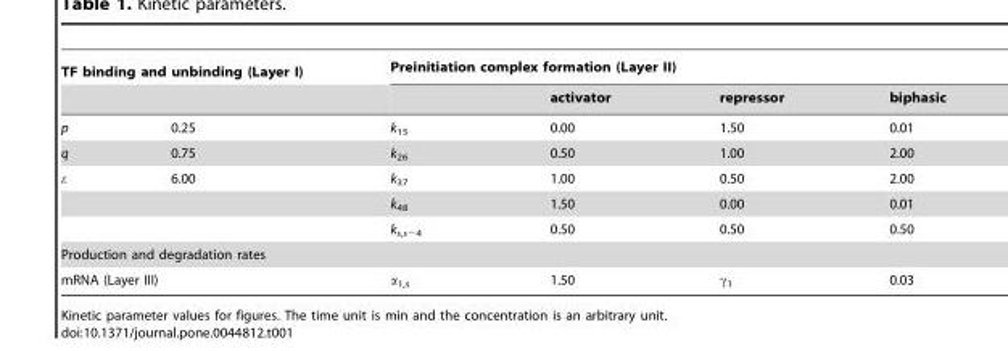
<table><thead><tr><td colspan="2">TF binding and unbinding (Layer I)</td><td colspan="4">Preinitiation complex formation (Layer II)</td></tr><tr><td></td><td></td><td></td><td>activator</td><td>repressor</td><td>biphasic</td></tr></thead><tbody><tr><td>p</td><td>0.25</td><td>k<sub>15</sub></td><td>0.00</td><td>1.50</td><td>0.01</td></tr><tr><td>q</td><td>0.75</td><td>k<sub>26</sub></td><td>0.50</td><td>1.00</td><td>2.00</td></tr><tr><td rowspan="3">ϵ</td><td>6.00</td><td>k<sub>37</sub></td><td>1.00</td><td>0.50</td><td>2.00</td></tr><tr><td></td><td>k<sub>48</sub></td><td>1.50</td><td>0.00</td><td>0.01</td></tr><tr><td></td><td>k<sub>s,s−4</sub></td><td>0.50</td><td>0.50</td><td>0.50</td></tr><tr><td colspan="6">Production and degradation rates</td></tr><tr><td colspan="2">mRNA (Layer III)</td><td>α<sub>1,s</sub></td><td>1.50</td><td>γ<sub>1</sub></td><td>0.03</td></tr></tbody></table>